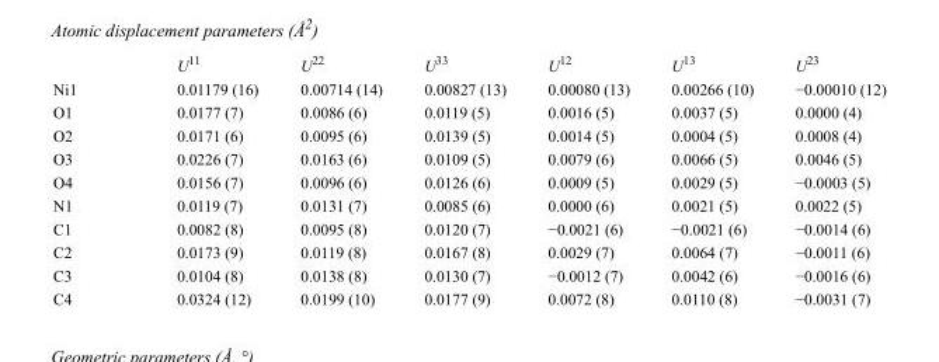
<table><thead><tr><td></td><td>U<sup>11</sup></td><td>U<sup>22</sup></td><td>U<sup>33</sup></td><td>U<sup>12</sup></td><td>U<sup>13</sup></td><td>U<sup>23</sup></td></tr></thead><tbody><tr><td>Ni1</td><td>0.01179 (16)</td><td>0.00714 (14)</td><td>0.00827 (13)</td><td>0.00080 (13)</td><td>0.00266 (10)</td><td>−0.00010 (12)</td></tr><tr><td>O1</td><td>0.0177 (7)</td><td>0.0086 (6)</td><td>0.0119 (5)</td><td>0.0016 (5)</td><td>0.0037 (5)</td><td>0.0000 (4)</td></tr><tr><td>O2</td><td>0.0171 (6)</td><td>0.0095 (6)</td><td>0.0139 (5)</td><td>0.0014 (5)</td><td>0.0004 (5)</td><td>0.0008 (4)</td></tr><tr><td>O3</td><td>0.0226 (7)</td><td>0.0163 (6)</td><td>0.0109 (5)</td><td>0.0079 (6)</td><td>0.0066 (5)</td><td>0.0046 (5)</td></tr><tr><td>O4</td><td>0.0156 (7)</td><td>0.0096 (6)</td><td>0.0126 (6)</td><td>0.0009 (5)</td><td>0.0029 (5)</td><td>−0.0003 (5)</td></tr><tr><td>N1</td><td>0.0119 (7)</td><td>0.0131 (7)</td><td>0.0085 (6)</td><td>0.0000 (6)</td><td>0.0021 (5)</td><td>0.0022 (5)</td></tr><tr><td>C1</td><td>0.0082 (8)</td><td>0.0095 (8)</td><td>0.0120 (7)</td><td>−0.0021 (6)</td><td>−0.0021 (6)</td><td>−0.0014 (6)</td></tr><tr><td>C2</td><td>0.0173 (9)</td><td>0.0119 (8)</td><td>0.0167 (8)</td><td>0.0029 (7)</td><td>0.0064 (7)</td><td>−0.0011 (6)</td></tr><tr><td>C3</td><td>0.0104 (8)</td><td>0.0138 (8)</td><td>0.0130 (7)</td><td>−0.0012 (7)</td><td>0.0042 (6)</td><td>−0.0016 (6)</td></tr><tr><td>C4</td><td>0.0324 (12)</td><td>0.0199 (10)</td><td>0.0177 (9)</td><td>0.0072 (8)</td><td>0.0110 (8)</td><td>−0.0031 (7)</td></tr></tbody></table>